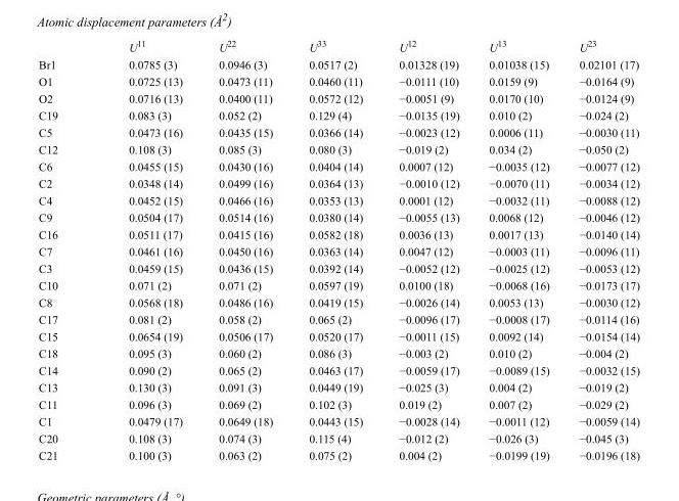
<table><thead><tr><td></td><td>U<sup>11</sup></td><td>U<sup>22</sup></td><td>U<sup>33</sup></td><td>U<sup>12</sup></td><td>U<sup>13</sup></td><td>U<sup>23</sup></td></tr></thead><tbody><tr><td>Br1</td><td>0.0785 (3)</td><td>0.0946 (3)</td><td>0.0517 (2)</td><td>0.01328 (19)</td><td>0.01038 (15)</td><td>0.02101 (17)</td></tr><tr><td>O1</td><td>0.0725 (13)</td><td>0.0473 (11)</td><td>0.0460 (11)</td><td>−0.0111 (10)</td><td>0.0159 (9)</td><td>−0.0164 (9)</td></tr><tr><td>O2</td><td>0.0716 (13)</td><td>0.0400 (11)</td><td>0.0572 (12)</td><td>−0.0051 (9)</td><td>0.0170 (10)</td><td>−0.0124 (9)</td></tr><tr><td>C19</td><td>0.083 (3)</td><td>0.052 (2)</td><td>0.129 (4)</td><td>−0.0135 (19)</td><td>0.010 (2)</td><td>−0.024 (2)</td></tr><tr><td>C5</td><td>0.0473 (16)</td><td>0.0435 (15)</td><td>0.0366 (14)</td><td>−0.0023 (12)</td><td>0.0006 (11)</td><td>−0.0030 (11)</td></tr><tr><td>C12</td><td>0.108 (3)</td><td>0.085 (3)</td><td>0.080 (3)</td><td>−0.019 (2)</td><td>0.034 (2)</td><td>−0.050 (2)</td></tr><tr><td>C6</td><td>0.0455 (15)</td><td>0.0430 (16)</td><td>0.0404 (14)</td><td>0.0007 (12)</td><td>−0.0035 (12)</td><td>−0.0077 (12)</td></tr><tr><td>C2</td><td>0.0348 (14)</td><td>0.0499 (16)</td><td>0.0364 (13)</td><td>−0.0010 (12)</td><td>−0.0070 (11)</td><td>−0.0034 (12)</td></tr><tr><td>C4</td><td>0.0452 (15)</td><td>0.0466 (16)</td><td>0.0353 (13)</td><td>0.0001 (12)</td><td>−0.0032 (11)</td><td>−0.0088 (12)</td></tr><tr><td>C9</td><td>0.0504 (17)</td><td>0.0514 (16)</td><td>0.0380 (14)</td><td>−0.0055 (13)</td><td>0.0068 (12)</td><td>−0.0046 (12)</td></tr><tr><td>C16</td><td>0.0511 (17)</td><td>0.0415 (16)</td><td>0.0582 (18)</td><td>0.0036 (13)</td><td>0.0017 (13)</td><td>−0.0140 (14)</td></tr><tr><td>C7</td><td>0.0461 (16)</td><td>0.0450 (16)</td><td>0.0363 (14)</td><td>0.0047 (12)</td><td>−0.0003 (11)</td><td>−0.0096 (11)</td></tr><tr><td>C3</td><td>0.0459 (15)</td><td>0.0436 (15)</td><td>0.0392 (14)</td><td>−0.0052 (12)</td><td>−0.0025 (12)</td><td>−0.0053 (12)</td></tr><tr><td>C10</td><td>0.071 (2)</td><td>0.071 (2)</td><td>0.0597 (19)</td><td>0.0100 (18)</td><td>−0.0068 (16)</td><td>−0.0173 (17)</td></tr><tr><td>C8</td><td>0.0568 (18)</td><td>0.0486 (16)</td><td>0.0419 (15)</td><td>−0.0026 (14)</td><td>0.0053 (13)</td><td>−0.0030 (12)</td></tr><tr><td>C17</td><td>0.081 (2)</td><td>0.058 (2)</td><td>0.065 (2)</td><td>−0.0096 (17)</td><td>−0.0008 (17)</td><td>−0.0114 (16)</td></tr><tr><td>C15</td><td>0.0654 (19)</td><td>0.0506 (17)</td><td>0.0520 (17)</td><td>−0.0011 (15)</td><td>0.0092 (14)</td><td>−0.0154 (14)</td></tr><tr><td>C18</td><td>0.095 (3)</td><td>0.060 (2)</td><td>0.086 (3)</td><td>−0.003 (2)</td><td>0.010 (2)</td><td>−0.004 (2)</td></tr><tr><td>C14</td><td>0.090 (2)</td><td>0.065 (2)</td><td>0.0463 (17)</td><td>−0.0059 (17)</td><td>−0.0089 (15)</td><td>−0.0032 (15)</td></tr><tr><td>C13</td><td>0.130 (3)</td><td>0.091 (3)</td><td>0.0449 (19)</td><td>−0.025 (3)</td><td>0.004 (2)</td><td>−0.019 (2)</td></tr><tr><td>C11</td><td>0.096 (3)</td><td>0.069 (2)</td><td>0.102 (3)</td><td>0.019 (2)</td><td>0.007 (2)</td><td>−0.029 (2)</td></tr><tr><td>C1</td><td>0.0479 (17)</td><td>0.0649 (18)</td><td>0.0443 (15)</td><td>−0.0028 (14)</td><td>−0.0011 (12)</td><td>−0.0059 (14)</td></tr><tr><td>C20</td><td>0.108 (3)</td><td>0.074 (3)</td><td>0.115 (4)</td><td>−0.012 (2)</td><td>−0.026 (3)</td><td>−0.045 (3)</td></tr><tr><td>C21</td><td>0.100 (3)</td><td>0.063 (2)</td><td>0.075 (2)</td><td>0.004 (2)</td><td>−0.0199 (19)</td><td>−0.0196 (18)</td></tr></tbody></table>